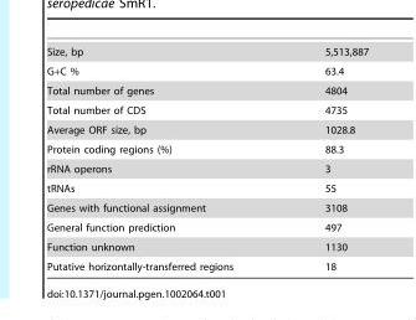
<table><tbody><tr><td>Size, bp</td><td>5,513,887</td></tr><tr><td>G+C %</td><td>63.4</td></tr><tr><td>Total number of genes</td><td>4804</td></tr><tr><td>Total number of CDS</td><td>4735</td></tr><tr><td>Average ORF size, bp</td><td>1028.8</td></tr><tr><td>Protein coding regions (%)</td><td>88.3</td></tr><tr><td>rRNA operons</td><td>3</td></tr><tr><td>tRNAs</td><td>55</td></tr><tr><td>Genes with functional assignment</td><td>3108</td></tr><tr><td>General function prediction</td><td>497</td></tr><tr><td>Function unknown</td><td>1130</td></tr><tr><td>Putative horizontally-transferred regions</td><td>18</td></tr></tbody></table>